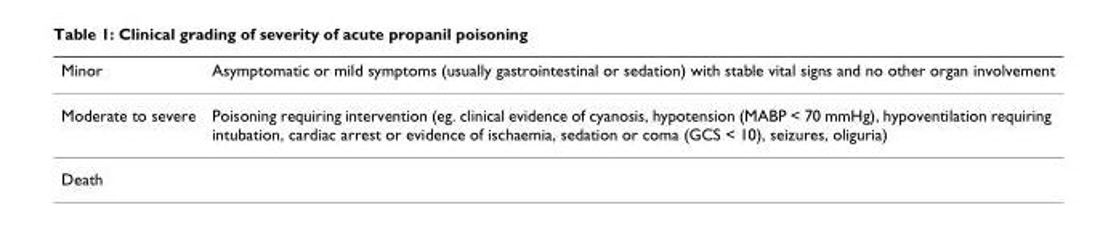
<table><thead><tr><td>Minor</td><td>Asymptomatic or mild symptoms (usually gastrointestinal or sedation) with stable vital signs and no other organ involvement</td></tr></thead><tbody><tr><td>Moderate to severe</td><td>Poisoning requiring intervention (eg. clinical evidence of cyanosis, hypotension (MABP &lt; 70 mmHg), hypoventilation requiring intubation, cardiac arrest or evidence of ischaemia, sedation or coma (GCS &lt; 10), seizures, oliguria)</td></tr><tr><td>Death</td><td></td></tr></tbody></table>